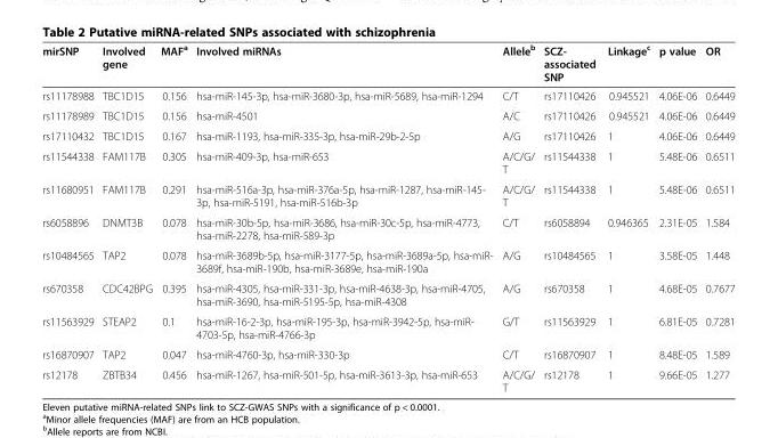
<table><thead><tr><td>mirSNP</td><td>Involved gene</td><td>MAF<sup>a</sup></td><td>Involved miRNAs</td><td>Allele<sup>b</sup></td><td>SCZ- associated SNP</td><td>Linkage<sup>c</sup></td><td>p value</td><td>OR</td></tr></thead><tbody><tr><td>rs11178988</td><td>TBC1D15</td><td>0.156</td><td>hsa-miR-145-3p, hsa-miR-3680-3p, hsa-miR-5689, hsa-miR-1294</td><td>C/T</td><td>rs17110426</td><td>0.945521</td><td>4.06E-06</td><td>0.6449</td></tr><tr><td>rs11178989</td><td>TBC1D15</td><td>0.156</td><td>hsa-miR-4501</td><td>A/C</td><td>rs17110426</td><td>0.945521</td><td>4.06E-06</td><td>0.6449</td></tr><tr><td>rs17110432</td><td>TBC1D15</td><td>0.167</td><td>hsa-miR-1193, hsa-miR-335-3p, hsa-miR-29b-2-5p</td><td>A/G</td><td>rs17110426</td><td>1</td><td>4.06E-06</td><td>0.6449</td></tr><tr><td>rs11544338</td><td>FAM117B</td><td>0.305</td><td>hsa-miR-409-3p, hsa-miR-653</td><td>A/C/G/ T</td><td>rs11544338</td><td>1</td><td>5.48E-06</td><td>0.6511</td></tr><tr><td>rs11680951</td><td>FAM117B</td><td>0.291</td><td>hsa-miR-516a-3p, hsa-miR-376a-5p, hsa-miR-1287, hsa-miR-145- 3p, hsa-miR-5191, hsa-miR-516b-3p</td><td>A/C/G/ T</td><td>rs11544338</td><td>1</td><td>5.48E-06</td><td>0.6511</td></tr><tr><td>rs6058896</td><td>DNMT3B</td><td>0.078</td><td>hsa-miR-30b-5p, hsa-miR-3686, hsa-miR-30c-5p, hsa-miR-4773, hsa-miR-2278, hsa-miR-589-3p</td><td>C/T</td><td>rs6058894</td><td>0.946365</td><td>2.31E-05</td><td>1.584</td></tr><tr><td>rs10484565</td><td>TAP2</td><td>0.078</td><td>hsa-miR-3689b-5p, hsa-miR-3177-5p, hsa-miR-3689a-5p, hsa-miR- 3689f, hsa-miR-190b, hsa-miR-3689e, hsa-miR-190a</td><td>A/G</td><td>rs10484565</td><td>1</td><td>3.58E-05</td><td>1.448</td></tr><tr><td>rs670358</td><td>CDC42BPG</td><td>0.395</td><td>hsa-miR-4305, hsa-miR-331-3p, hsa-miR-4638-3p, hsa-miR-4705, hsa-miR-3690, hsa-miR-5195-5p, hsa-miR-4308</td><td>A/G</td><td>rs670358</td><td>1</td><td>4.68E-05</td><td>0.7677</td></tr><tr><td>rs11563929</td><td>STEAP2</td><td>0.1</td><td>hsa-miR-16-2-3p, hsa-miR-195-3p, hsa-miR-3942-5p, hsa-miR- 4703-5p, hsa-miR-4766-3p</td><td>G/T</td><td>rs11563929</td><td>1</td><td>6.81E-05</td><td>0.7281</td></tr><tr><td>rs16870907</td><td>TAP2</td><td>0.047</td><td>hsa-miR-4760-3p, hsa-miR-330-3p</td><td>C/T</td><td>rs16870907</td><td>1</td><td>8.48E-05</td><td>1.589</td></tr><tr><td>rs12178</td><td>ZBTB34</td><td>0.456</td><td>hsa-miR-1267, hsa-miR-501-5p, hsa-miR-3613-3p, hsa-miR-653</td><td>A/C/G/ T</td><td>rs12178</td><td>1</td><td>9.66E-05</td><td>1.277</td></tr></tbody></table>